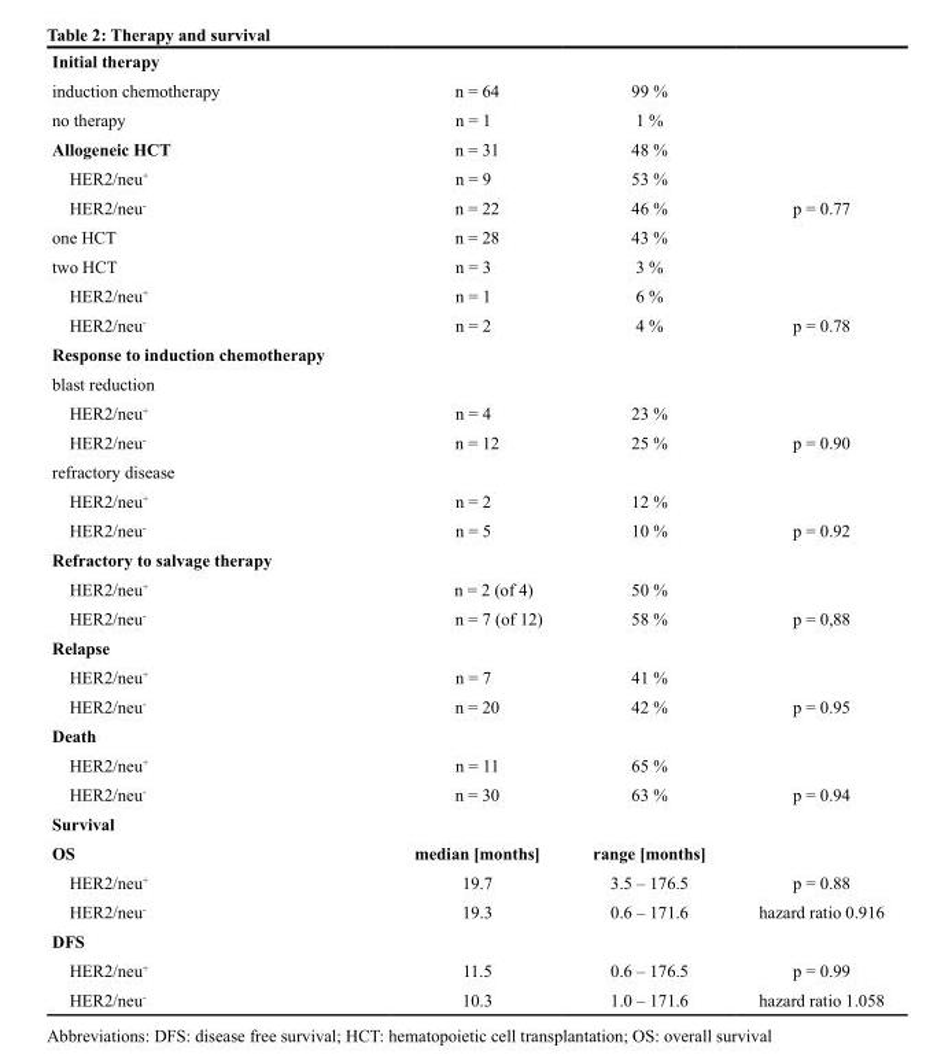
<table><tbody><tr><td colspan="4">Initial therapy</td></tr><tr><td>induction chemotherapy</td><td>n = 64</td><td>99 %</td><td></td></tr><tr><td>no therapy</td><td>n = 1</td><td>1 %</td><td></td></tr><tr><td>Allogeneic HCT</td><td>n = 31</td><td>48 %</td><td></td></tr><tr><td>HER2/neu<sup>+</sup></td><td>n = 9</td><td>53 %</td><td></td></tr><tr><td>HER2/neu<sup>-</sup></td><td>n = 22</td><td>46 %</td><td>p = 0.77</td></tr><tr><td>one HCT</td><td>n = 28</td><td>43 %</td><td></td></tr><tr><td>two HCT</td><td>n = 3</td><td>3 %</td><td></td></tr><tr><td>HER2/neu<sup>+</sup></td><td>n = 1</td><td>6 %</td><td></td></tr><tr><td>HER2/neu<sup>-</sup></td><td>n = 2</td><td>4 %</td><td>p = 0.78</td></tr><tr><td colspan="4">Response to induction chemotherapy</td></tr><tr><td colspan="4">blast reduction</td></tr><tr><td>HER2/neu<sup>+</sup></td><td>n = 4</td><td>23 %</td><td></td></tr><tr><td>HER2/neu<sup>-</sup></td><td>n = 12</td><td>25 %</td><td>p = 0.90</td></tr><tr><td colspan="4">refractory disease</td></tr><tr><td>HER2/neu<sup>+</sup></td><td>n = 2</td><td>12 %</td><td></td></tr><tr><td>HER2/neu<sup>-</sup></td><td>n = 5</td><td>10 %</td><td>p = 0.92</td></tr><tr><td colspan="4">Refractory to salvage therapy</td></tr><tr><td>HER2/neu<sup>+</sup></td><td>n = 2 (of 4)</td><td>50 %</td><td></td></tr><tr><td>HER2/neu<sup>-</sup></td><td>n = 7 (of 12)</td><td>58 %</td><td>p = 0,88</td></tr><tr><td colspan="4">Relapse</td></tr><tr><td>HER2/neu<sup>+</sup></td><td>n = 7</td><td>41 %</td><td></td></tr><tr><td>HER2/neu<sup>-</sup></td><td>n = 20</td><td>42 %</td><td>p = 0.95</td></tr><tr><td colspan="4">Death</td></tr><tr><td>HER2/neu<sup>+</sup></td><td>n = 11</td><td>65 %</td><td></td></tr><tr><td>HER2/neu<sup>-</sup></td><td>n = 30</td><td>63 %</td><td>p = 0.94</td></tr><tr><td colspan="4">Survival</td></tr><tr><td>OS</td><td>median [months]</td><td>range [months]</td><td></td></tr><tr><td>HER2/neu<sup>+</sup></td><td>19.7</td><td>3.5 – 176.5</td><td>p = 0.88</td></tr><tr><td>HER2/neu<sup>-</sup></td><td>19.3</td><td>0.6 – 171.6</td><td>hazard ratio 0.916</td></tr><tr><td colspan="4">DFS</td></tr><tr><td>HER2/neu<sup>+</sup></td><td>11.5</td><td>0.6 – 176.5</td><td>p = 0.99</td></tr><tr><td>HER2/neu<sup>-</sup></td><td>10.3</td><td>1.0 – 171.6</td><td>hazard ratio 1.058</td></tr></tbody></table>